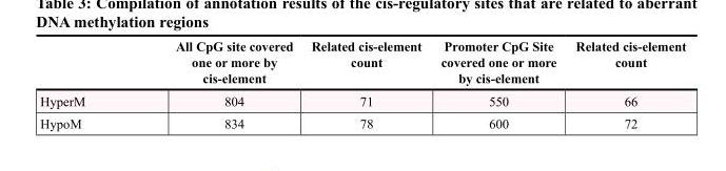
<table><thead><tr><td></td><td>All CpG site covered one or more by cis-element</td><td>Related cis-element count</td><td>Promoter CpG Site covered one or more by cis-element</td><td>Related cis-element count</td></tr></thead><tbody><tr><td>HyperM</td><td>804</td><td>71</td><td>550</td><td>66</td></tr><tr><td>HypoM</td><td>834</td><td>78</td><td>600</td><td>72</td></tr></tbody></table>